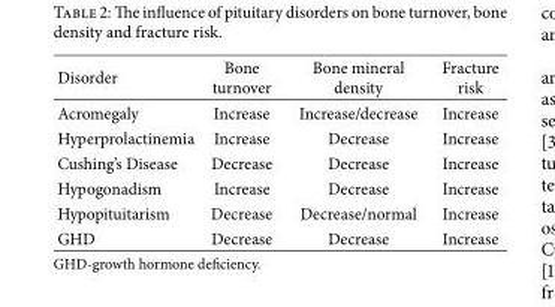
<table><thead><tr><td>Disorder</td><td>Bone turnover</td><td>Bone mineral density</td><td>Fracture risk</td></tr></thead><tbody><tr><td>Acromegaly</td><td>Increase</td><td>Increase/decrease</td><td>Increase</td></tr><tr><td>Hyperprolactinemia</td><td>Increase</td><td>Decrease</td><td>Increase</td></tr><tr><td>Cushing’s Disease</td><td>Decrease</td><td>Decrease</td><td>Increase</td></tr><tr><td>Hypogonadism</td><td>Increase</td><td>Decrease</td><td>Increase</td></tr><tr><td>Hypopituitarism</td><td>Decrease</td><td>Decrease/normal</td><td>Increase</td></tr><tr><td>GHD</td><td>Decrease</td><td>Decrease</td><td>Increase</td></tr></tbody></table>